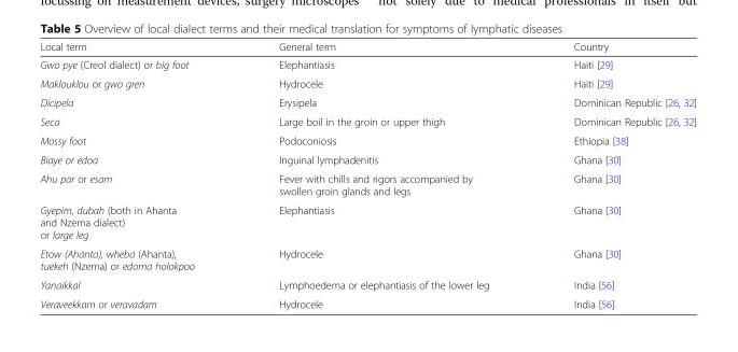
<table><thead><tr><td>Local term</td><td>General term</td><td>Country</td></tr></thead><tbody><tr><td>Gwo pye (Creol dialect) or big foot</td><td>Elephantiasis</td><td>Haiti [29]</td></tr><tr><td>Maklouklou or gwo gren</td><td>Hydrocele</td><td>Haiti [29]</td></tr><tr><td>Dicipela</td><td>Erysipela</td><td>Dominican Republic [26, 32]</td></tr><tr><td>Seca</td><td>Large boil in the groin or upper thigh</td><td>Dominican Republic [26, 32]</td></tr><tr><td>Mossy foot</td><td>Podoconiosis</td><td>Ethiopia [38]</td></tr><tr><td>Biaye or edoa</td><td>Inguinal lymphadenitis</td><td>Ghana [30]</td></tr><tr><td>Ahu par or esam</td><td>Fever with chills and rigors accompanied by swollen groin glands and legs</td><td>Ghana [30]</td></tr><tr><td>Gyepim, dubah (both in Ahanta and Nzema dialect) or large leg</td><td>Elephantiasis</td><td>Ghana [30]</td></tr><tr><td>Etow (Ahanta), wheba (Ahanta), tuekeh (Nzema) or edoma holokpoo</td><td>Hydrocele</td><td>Ghana [30]</td></tr><tr><td>Yanaikkal</td><td>Lymphoedema or elephantiasis of the lower leg</td><td>India [56]</td></tr><tr><td>Veraveekkam or veravadam</td><td>Hydrocele</td><td>India [56]</td></tr></tbody></table>